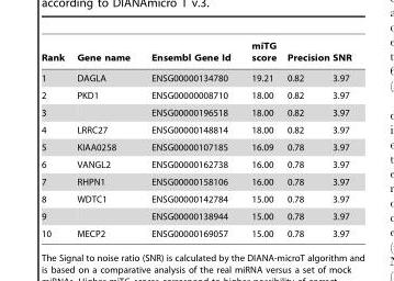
<table><thead><tr><td>Rank</td><td>Gene name</td><td>Ensembl Gene Id</td><td>miTG score</td><td>Precision</td><td>SNR</td></tr></thead><tbody><tr><td>1</td><td>DAGLA</td><td>ENSG00000134780</td><td>19.21</td><td>0.82</td><td>3.97</td></tr><tr><td>2</td><td>PKD1</td><td>ENSG00000008710</td><td>18.00</td><td>0.82</td><td>3.97</td></tr><tr><td>3</td><td></td><td>ENSG00000196518</td><td>18.00</td><td>0.82</td><td>3.97</td></tr><tr><td>4</td><td>LRRC27</td><td>ENSG00000148814</td><td>18.00</td><td>0.82</td><td>3.97</td></tr><tr><td>5</td><td>KIAA0258</td><td>ENSG00000107185</td><td>16.09</td><td>0.78</td><td>3.97</td></tr><tr><td>6</td><td>VANGL2</td><td>ENSG00000162738</td><td>16.00</td><td>0.78</td><td>3.97</td></tr><tr><td>7</td><td>RHPN1</td><td>ENSG00000158106</td><td>16.00</td><td>0.78</td><td>3.97</td></tr><tr><td>8</td><td>WDTC1</td><td>ENSG00000142784</td><td>15.00</td><td>0.78</td><td>3.97</td></tr><tr><td>9</td><td></td><td>ENSG00000138944</td><td>15.00</td><td>0.78</td><td>3.97</td></tr><tr><td>10</td><td>MECP2</td><td>ENSG00000169057</td><td>15.00</td><td>0.78</td><td>3.97</td></tr></tbody></table>